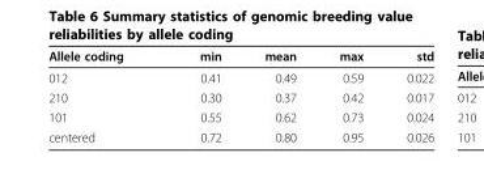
<table><thead><tr><td>Allele coding</td><td>min</td><td>mean</td><td>max</td><td>std</td></tr></thead><tbody><tr><td>012</td><td>0.41</td><td>0.49</td><td>0.59</td><td>0.022</td></tr><tr><td>210</td><td>0.30</td><td>0.37</td><td>0.42</td><td>0.017</td></tr><tr><td>101</td><td>0.55</td><td>0.62</td><td>0.73</td><td>0.024</td></tr><tr><td>centered</td><td>0.72</td><td>0.80</td><td>0.95</td><td>0.026</td></tr></tbody></table>